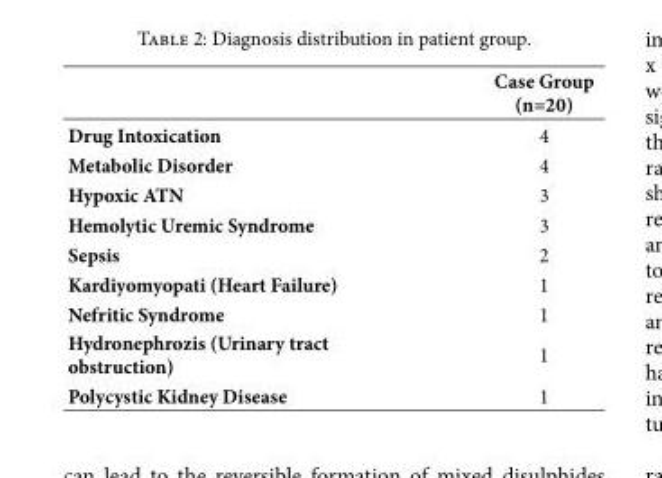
<table><thead><tr><td></td><td>Case Group (n=20)</td></tr></thead><tbody><tr><td>Drug Intoxication</td><td>4</td></tr><tr><td>Metabolic Disorder</td><td>4</td></tr><tr><td>Hypoxic ATN</td><td>3</td></tr><tr><td>Hemolytic Uremic Syndrome</td><td>3</td></tr><tr><td>Sepsis</td><td>2</td></tr><tr><td>Kardiyomyopati (Heart Failure)</td><td>1</td></tr><tr><td>Nefritic Syndrome</td><td>1</td></tr><tr><td>Hydronephrozis (Urinary tract obstruction)</td><td>1</td></tr><tr><td>Polycystic Kidney Disease</td><td>1</td></tr></tbody></table>